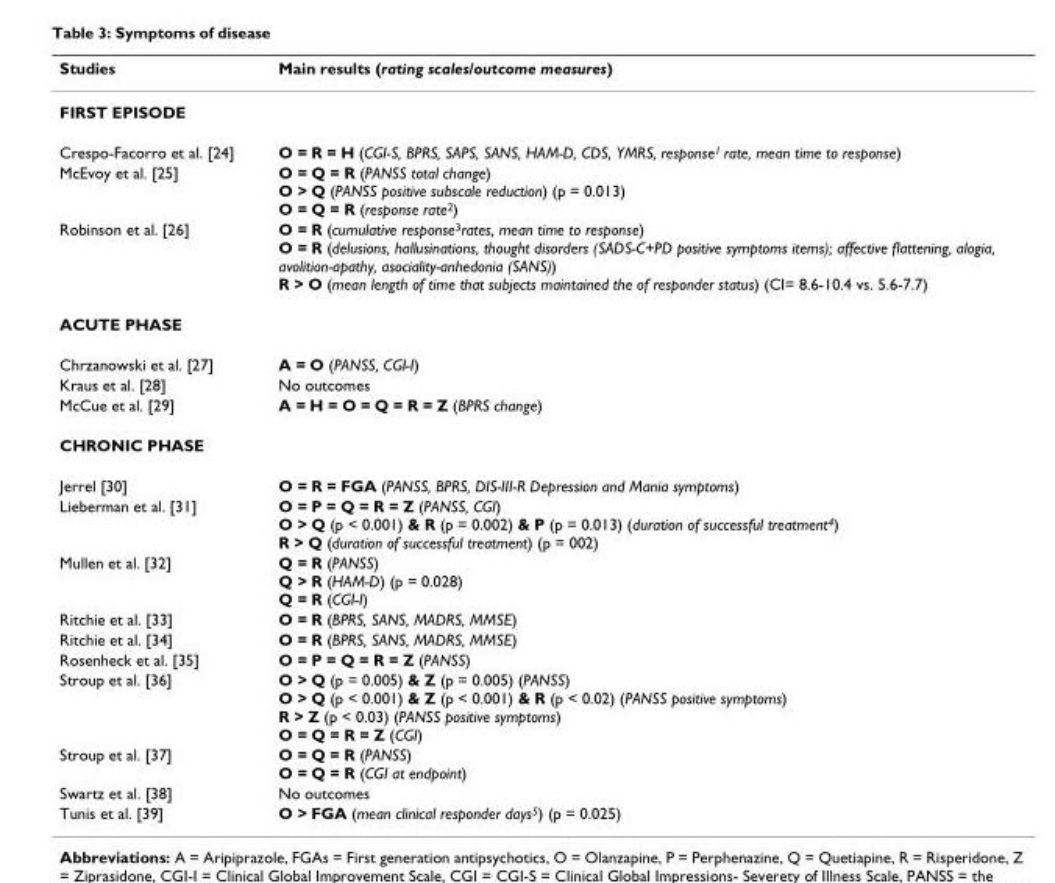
<table><thead><tr><td>Studies</td><td>Main results (rating scales/outcome measures)</td></tr></thead><tbody><tr><td colspan="2">FIRST EPISODE</td></tr><tr><td>Crespo-Facorro et al. [24]</td><td>O = R = H (CGI-S, BPRS, SAPS, SANS, HAM-D, CDS, YMRS, response<sup>1</sup> rate, mean time to response)</td></tr><tr><td>McEvoy et al. [25]</td><td>O = Q = R (PANSS total change) O &gt; Q (PANSS positive subscale reduction) (p = 0.013) O = Q = R (response rate<sup>2</sup>)</td></tr><tr><td>Robinson et al. [26]</td><td>O = R (cumulative response<sup>3</sup>rates, mean time to response) O = R (delusions, hallusinations, thought disorders (SADS-C+PD positive symptoms items); affective flattening, alogia, avolition-apathy, asociality-anhedonia (SANS)) R &gt; O (mean length of time that subjects maintained the of responder status) (CI= 8.6-10.4 vs. 5.6-7.7)</td></tr><tr><td colspan="2">ACUTE PHASE</td></tr><tr><td>Chrzanowski et al. [27]</td><td>A = O (PANSS, CGI-I)</td></tr><tr><td>Kraus et al. [28]</td><td>No outcomes</td></tr><tr><td>McCue et al. [29]</td><td>A = H = O = Q = R = Z (BPRS change)</td></tr><tr><td colspan="2">CHRONIC PHASE</td></tr><tr><td>Jerrel [30]</td><td>O = R = FGA (PANSS, BPRS, DIS-III-R Depression and Mania symptoms)</td></tr><tr><td>Lieberman et al. [31]</td><td>O = P = Q = R = Z (PANSS, CGI) O &gt; Q (p &lt; 0.001) &amp; R (p = 0.002) &amp; P (p = 0.013) (duration of successful treatment<sup>4</sup>) R &gt; Q (duration of successful treatment) (p = 002)</td></tr><tr><td>Mullen et al. [32]</td><td>Q = R (PANSS) Q &gt; R (HAM-D) (p = 0.028) Q = R (CGI-I)</td></tr><tr><td>Ritchie et al. [33]</td><td>O = R (BPRS, SANS, MADRS, MMSE)</td></tr><tr><td>Ritchie et al. [34]</td><td>O = R (BPRS, SANS, MADRS, MMSE)</td></tr><tr><td>Rosenheck et al. [35]</td><td>O = P = Q = R = Z (PANSS)</td></tr><tr><td>Stroup et al. [36]</td><td>O &gt; Q (p = 0.005) &amp; Z (p = 0.005) (PANSS) O &gt; Q (p &lt; 0.001) &amp; Z (p &lt; 0.001) &amp; R (p &lt; 0.02) (PANSS positive symptoms) R &gt; Z (p &lt; 0.03) (PANSS positive symptoms) O = Q = R = Z (CGI)</td></tr><tr><td>Stroup et al. [37]</td><td>O = Q = R (PANSS) O = Q = R (CGI at endpoint)</td></tr><tr><td>Swartz et al. [38]</td><td>No outcomes</td></tr><tr><td>Tunis et al. [39]</td><td>O &gt; FGA (mean clinical responder days<sup>5</sup>) (p = 0.025)</td></tr></tbody></table>